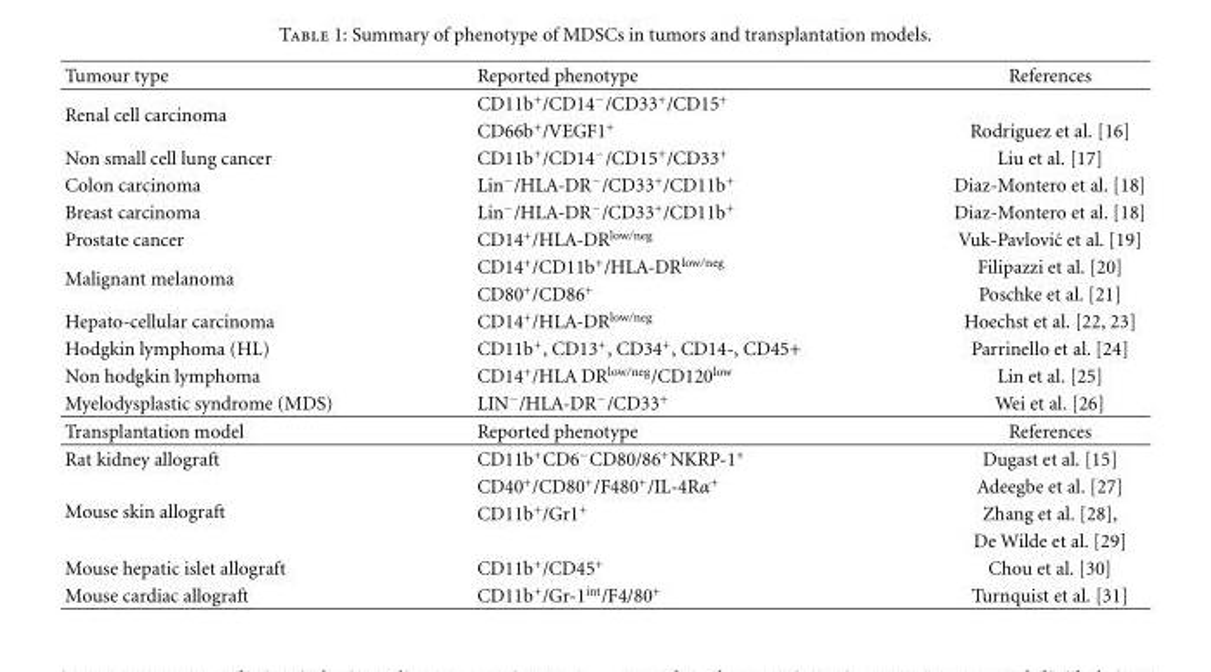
<table><thead><tr><td>Tumour type</td><td>Reported phenotype</td><td>References</td></tr></thead><tbody><tr><td rowspan="2">Renal cell carcinoma</td><td>CD11b<sup>+</sup>/CD14<sup>−</sup>/CD33<sup>+</sup>/CD15<sup>+</sup></td><td></td></tr><tr><td>CD66b<sup>+</sup>/VEGF1<sup>+</sup></td><td>Rodriguez et al. [16]</td></tr><tr><td>Non small cell lung cancer</td><td>CD11b<sup>+</sup>/CD14<sup>−</sup>/CD15<sup>+</sup>/CD33<sup>+</sup></td><td>Liu et al. [17]</td></tr><tr><td>Colon carcinoma</td><td>Lin<sup>−</sup>/HLA-DR<sup>−</sup>/CD33<sup>+</sup>/CD11b<sup>+</sup></td><td>Diaz-Montero et al. [18]</td></tr><tr><td>Breast carcinoma</td><td>Lin<sup>−</sup>/HLA-DR<sup>−</sup>/CD33<sup>+</sup>/CD11b<sup>+</sup></td><td>Diaz-Montero et al. [18]</td></tr><tr><td>Prostate cancer</td><td>CD14<sup>+</sup>/HLA-DR<sup>low/neg</sup></td><td>Vuk-Pavlovi´c et al. [19]</td></tr><tr><td rowspan="2">Malignant melanoma</td><td>CD14<sup>+</sup>/CD11b<sup>+</sup>/HLA-DR<sup>low/neg</sup></td><td>Filipazzi et al. [20]</td></tr><tr><td>CD80<sup>+</sup>/CD86<sup>+</sup></td><td>Poschke et al. [21]</td></tr><tr><td>Hepato-cellular carcinoma</td><td>CD14<sup>+</sup>/HLA-DR<sup>low/neg</sup></td><td>Hoechst et al. [22, 23]</td></tr><tr><td>Hodgkin lymphoma (HL)</td><td>CD11b<sup>+</sup>, CD13<sup>+</sup>, CD34<sup>+</sup>, CD14-, CD45+</td><td>Parrinello et al. [24]</td></tr><tr><td>Non hodgkin lymphoma</td><td>CD14<sup>+</sup>/HLA DR<sup>low/neg</sup>/CD120<sup>low</sup></td><td>Lin et al. [25]</td></tr><tr><td>Myelodysplastic syndrome (MDS)</td><td>LIN<sup>−</sup>/HLA-DR<sup>−</sup>/CD33<sup>+</sup></td><td>Wei et al. [26]</td></tr><tr><td>Transplantation model</td><td>Reported phenotype</td><td>References</td></tr><tr><td>Rat kidney allograft</td><td>CD11b<sup>+</sup>CD6<sup>−</sup>CD80/86<sup>+</sup>NKRP-1<sup>+</sup></td><td>Dugast et al. [15]</td></tr><tr><td rowspan="3">Mouse skin allograft</td><td>CD40<sup>+</sup>/CD80<sup>+</sup>/F480<sup>+</sup>/IL-4Rα<sup>+</sup></td><td>Adeegbe et al. [27]</td></tr><tr><td>CD11b<sup>+</sup>/Gr1<sup>+</sup></td><td>Zhang et al. [28],</td></tr><tr><td></td><td>De Wilde et al. [29]</td></tr><tr><td>Mouse hepatic islet allograft</td><td>CD11b<sup>+</sup>/CD45<sup>+</sup></td><td>Chou et al. [30]</td></tr><tr><td>Mouse cardiac allograft</td><td>CD11b<sup>+</sup>/Gr-1<sup>int</sup>/F4/80<sup>+</sup></td><td>Turnquist et al. [31]</td></tr></tbody></table>